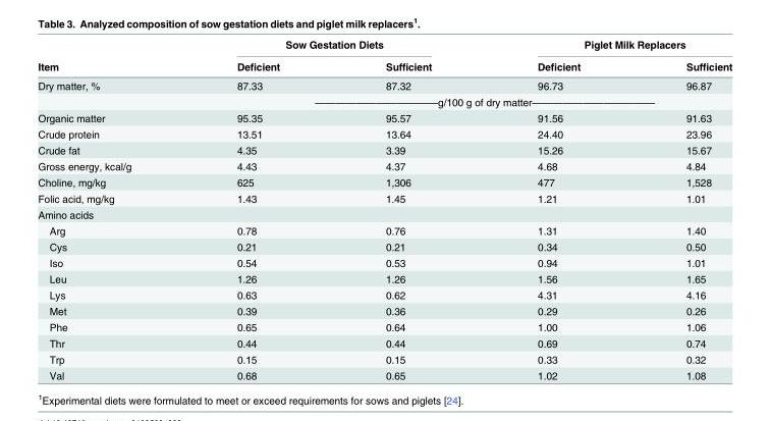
<table><thead><tr><td rowspan="2">Item</td><td colspan="2">Sow Gestation Diets</td><td colspan="2">Piglet Milk Replacers</td></tr><tr><td>Deficient</td><td>Sufficient</td><td>Deficient</td><td>Sufficient</td></tr></thead><tbody><tr><td rowspan="2">Dry matter, %</td><td>87.33</td><td>87.32</td><td>96.73</td><td>96.87</td></tr><tr><td colspan="4">————————————g/100 g of dry matter————————————</td></tr><tr><td>Organic matter</td><td>95.35</td><td>95.57</td><td>91.56</td><td>91.63</td></tr><tr><td>Crude protein</td><td>13.51</td><td>13.64</td><td>24.40</td><td>23.96</td></tr><tr><td>Crude fat</td><td>4.35</td><td>3.39</td><td>15.26</td><td>15.67</td></tr><tr><td>Gross energy, kcal/g</td><td>4.43</td><td>4.37</td><td>4.68</td><td>4.84</td></tr><tr><td>Choline, mg/kg</td><td>625</td><td>1,306</td><td>477</td><td>1,528</td></tr><tr><td>Folic acid, mg/kg</td><td>1.43</td><td>1.45</td><td>1.21</td><td>1.01</td></tr><tr><td colspan="5">Amino acids</td></tr><tr><td>Arg</td><td>0.78</td><td>0.76</td><td>1.31</td><td>1.40</td></tr><tr><td>Cys</td><td>0.21</td><td>0.21</td><td>0.34</td><td>0.50</td></tr><tr><td>Iso</td><td>0.54</td><td>0.53</td><td>0.94</td><td>1.01</td></tr><tr><td>Leu</td><td>1.26</td><td>1.26</td><td>1.56</td><td>1.65</td></tr><tr><td>Lys</td><td>0.63</td><td>0.62</td><td>4.31</td><td>4.16</td></tr><tr><td>Met</td><td>0.39</td><td>0.36</td><td>0.29</td><td>0.26</td></tr><tr><td>Phe</td><td>0.65</td><td>0.64</td><td>1.00</td><td>1.06</td></tr><tr><td>Thr</td><td>0.44</td><td>0.44</td><td>0.69</td><td>0.74</td></tr><tr><td>Trp</td><td>0.15</td><td>0.15</td><td>0.33</td><td>0.32</td></tr><tr><td>Val</td><td>0.68</td><td>0.65</td><td>1.02</td><td>1.08</td></tr></tbody></table>